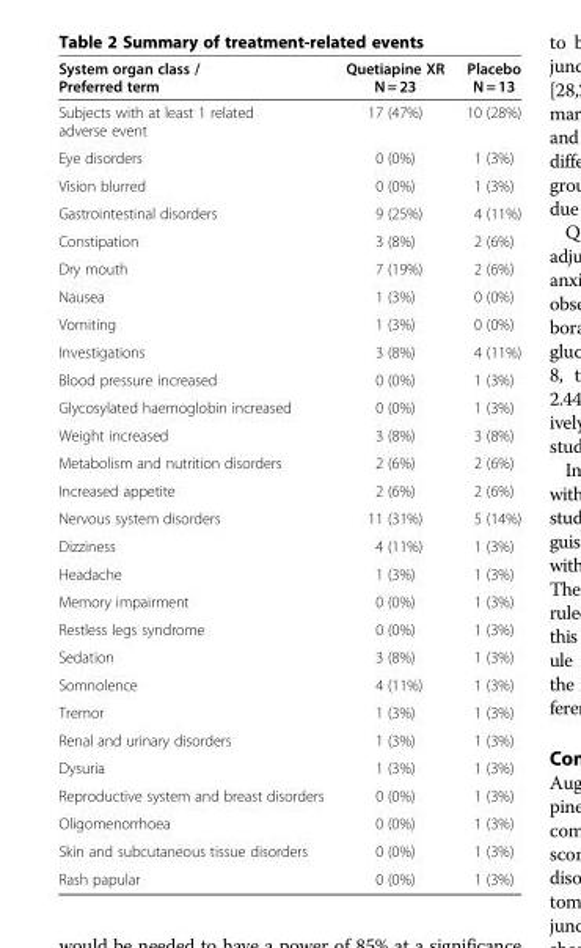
<table><thead><tr><td>System organ class / Preferred term</td><td>Quetiapine XR N = 23</td><td>Placebo N = 13</td></tr></thead><tbody><tr><td>Subjects with at least 1 related adverse event</td><td>17 (47%)</td><td>10 (28%)</td></tr><tr><td>Eye disorders</td><td>0 (0%)</td><td>1 (3%)</td></tr><tr><td>Vision blurred</td><td>0 (0%)</td><td>1 (3%)</td></tr><tr><td>Gastrointestinal disorders</td><td>9 (25%)</td><td>4 (11%)</td></tr><tr><td>Constipation</td><td>3 (8%)</td><td>2 (6%)</td></tr><tr><td>Dry mouth</td><td>7 (19%)</td><td>2 (6%)</td></tr><tr><td>Nausea</td><td>1 (3%)</td><td>0 (0%)</td></tr><tr><td>Vomiting</td><td>1 (3%)</td><td>0 (0%)</td></tr><tr><td>Investigations</td><td>3 (8%)</td><td>4 (11%)</td></tr><tr><td>Blood pressure increased</td><td>0 (0%)</td><td>1 (3%)</td></tr><tr><td>Glycosylated haemoglobin increased</td><td>0 (0%)</td><td>1 (3%)</td></tr><tr><td>Weight increased</td><td>3 (8%)</td><td>3 (8%)</td></tr><tr><td>Metabolism and nutrition disorders</td><td>2 (6%)</td><td>2 (6%)</td></tr><tr><td>Increased appetite</td><td>2 (6%)</td><td>2 (6%)</td></tr><tr><td>Nervous system disorders</td><td>11 (31%)</td><td>5 (14%)</td></tr><tr><td>Dizziness</td><td>4 (11%)</td><td>1 (3%)</td></tr><tr><td>Headache</td><td>1 (3%)</td><td>1 (3%)</td></tr><tr><td>Memory impairment</td><td>0 (0%)</td><td>1 (3%)</td></tr><tr><td>Restless legs syndrome</td><td>0 (0%)</td><td>1 (3%)</td></tr><tr><td>Sedation</td><td>3 (8%)</td><td>1 (3%)</td></tr><tr><td>Somnolence</td><td>4 (11%)</td><td>1 (3%)</td></tr><tr><td>Tremor</td><td>1 (3%)</td><td>1 (3%)</td></tr><tr><td>Renal and urinary disorders</td><td>1 (3%)</td><td>1 (3%)</td></tr><tr><td>Dysuria</td><td>1 (3%)</td><td>1 (3%)</td></tr><tr><td>Reproductive system and breast disorders</td><td>0 (0%)</td><td>1 (3%)</td></tr><tr><td>Oligomenorrhoea</td><td>0 (0%)</td><td>1 (3%)</td></tr><tr><td>Skin and subcutaneous tissue disorders</td><td>0 (0%)</td><td>1 (3%)</td></tr><tr><td>Rash papular</td><td>0 (0%)</td><td>1 (3%)</td></tr></tbody></table>